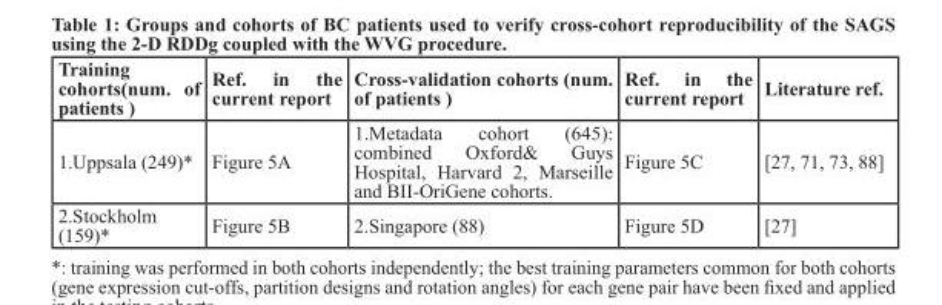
<table><thead><tr><td>Training cohorts(num. of patients )</td><td>Ref. in the current report</td><td>Cross-validation cohorts (num. of patients )</td><td>Ref. in the current report</td><td>Literature ref.</td></tr></thead><tbody><tr><td>1.Uppsala (249)*</td><td>Figure 5A</td><td>1.Metadata cohort (645): combined Oxford&amp; Guys Hospital, Harvard 2, Marseille and BII-OriGene cohorts.</td><td>Figure 5C</td><td>[27, 71, 73, 88]</td></tr><tr><td>2.Stockholm (159)*</td><td>Figure 5B</td><td>2.Singapore (88)</td><td>Figure 5D</td><td>[27]</td></tr></tbody></table>